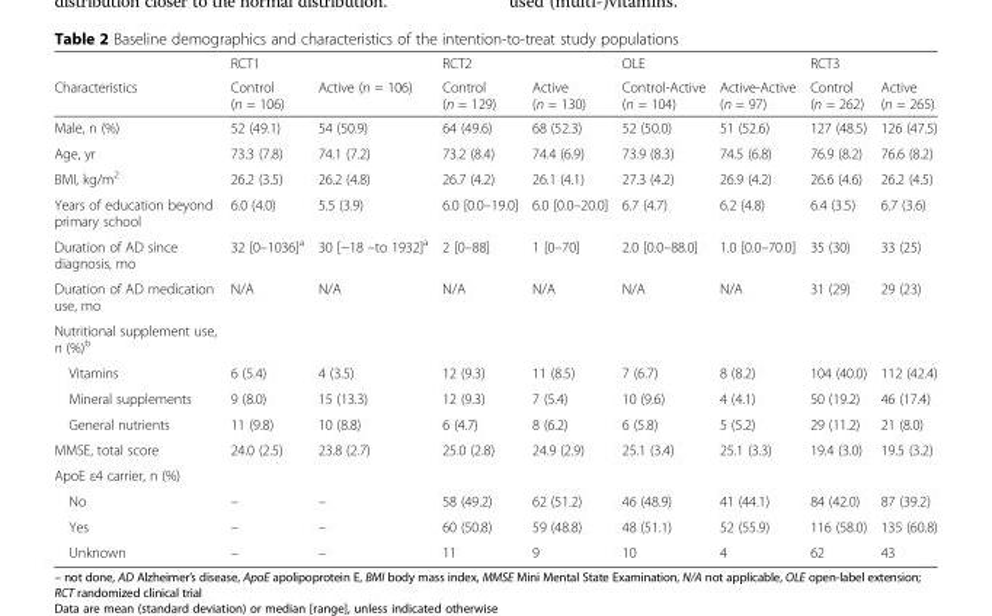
<table><thead><tr><td rowspan="2">Characteristics</td><td colspan="2">RCT1</td><td colspan="2">RCT2</td><td colspan="2">OLE</td><td colspan="2">RCT3</td></tr><tr><td>Control (n = 106)</td><td>Active (n = 106)</td><td>Control (n = 129)</td><td>Active (n = 130)</td><td>Control-Active (n = 104)</td><td>Active-Active (n = 97)</td><td>Control (n = 262)</td><td>Active (n = 265)</td></tr></thead><tbody><tr><td>Male, n (%)</td><td>52 (49.1)</td><td>54 (50.9)</td><td>64 (49.6)</td><td>68 (52.3)</td><td>52 (50.0)</td><td>51 (52.6)</td><td>127 (48.5)</td><td>126 (47.5)</td></tr><tr><td>Age, yr</td><td>73.3 (7.8)</td><td>74.1 (7.2)</td><td>73.2 (8.4)</td><td>74.4 (6.9)</td><td>73.9 (8.3)</td><td>74.5 (6.8)</td><td>76.9 (8.2)</td><td>76.6 (8.2)</td></tr><tr><td>BMI, kg/m<sup>2</sup></td><td>26.2 (3.5)</td><td>26.2 (4.8)</td><td>26.7 (4.2)</td><td>26.1 (4.1)</td><td>27.3 (4.2)</td><td>26.9 (4.2)</td><td>26.6 (4.6)</td><td>26.2 (4.5)</td></tr><tr><td>Years of education beyond primary school</td><td>6.0 (4.0)</td><td>5.5 (3.9)</td><td>6.0 [0.0–19.0]</td><td>6.0 [0.0–20.0]</td><td>6.7 (4.7)</td><td>6.2 (4.8)</td><td>6.4 (3.5)</td><td>6.7 (3.6)</td></tr><tr><td>Duration of AD since diagnosis, mo</td><td>32 [0–1036]<sup>a</sup></td><td>30 [−18 –to 1932]<sup>a</sup></td><td>2 [0–88]</td><td>1 [0–70]</td><td>2.0 [0.0–88.0]</td><td>1.0 [0.0–70.0]</td><td>35 (30)</td><td>33 (25)</td></tr><tr><td>Duration of AD medication use, mo</td><td>N/A</td><td>N/A</td><td>N/A</td><td>N/A</td><td>N/A</td><td>N/A</td><td>31 (29)</td><td>29 (23)</td></tr><tr><td colspan="9">Nutritional supplement use, n (%)<sup>b</sup></td></tr><tr><td>Vitamins</td><td>6 (5.4)</td><td>4 (3.5)</td><td>12 (9.3)</td><td>11 (8.5)</td><td>7 (6.7)</td><td>8 (8.2)</td><td>104 (40.0)</td><td>112 (42.4)</td></tr><tr><td>Mineral supplements</td><td>9 (8.0)</td><td>15 (13.3)</td><td>12 (9.3)</td><td>7 (5.4)</td><td>10 (9.6)</td><td>4 (4.1)</td><td>50 (19.2)</td><td>46 (17.4)</td></tr><tr><td>General nutrients</td><td>11 (9.8)</td><td>10 (8.8)</td><td>6 (4.7)</td><td>8 (6.2)</td><td>6 (5.8)</td><td>5 (5.2)</td><td>29 (11.2)</td><td>21 (8.0)</td></tr><tr><td>MMSE, total score</td><td>24.0 (2.5)</td><td>23.8 (2.7)</td><td>25.0 (2.8)</td><td>24.9 (2.9)</td><td>25.1 (3.4)</td><td>25.1 (3.3)</td><td>19.4 (3.0)</td><td>19.5 (3.2)</td></tr><tr><td colspan="9">ApoE ε4 carrier, n (%)</td></tr><tr><td>No</td><td>–</td><td>–</td><td>58 (49.2)</td><td>62 (51.2)</td><td>46 (48.9)</td><td>41 (44.1)</td><td>84 (42.0)</td><td>87 (39.2)</td></tr><tr><td>Yes</td><td>–</td><td>–</td><td>60 (50.8)</td><td>59 (48.8)</td><td>48 (51.1)</td><td>52 (55.9)</td><td>116 (58.0)</td><td>135 (60.8)</td></tr><tr><td>Unknown</td><td>–</td><td>–</td><td>11</td><td>9</td><td>10</td><td>4</td><td>62</td><td>43</td></tr></tbody></table>